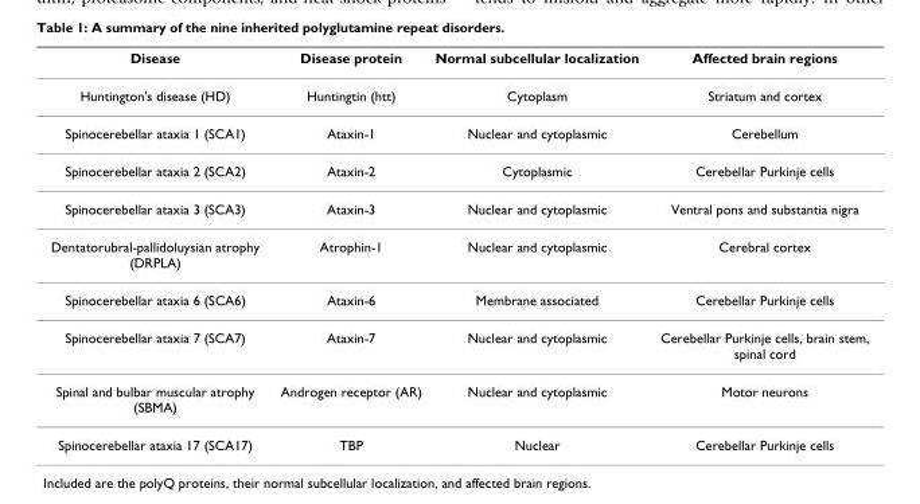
<table><thead><tr><td>Disease</td><td>Disease protein</td><td>Normal subcellular localization</td><td>Affected brain regions</td></tr></thead><tbody><tr><td>Huntington&#x27;s disease (HD)</td><td>Huntingtin (htt)</td><td>Cytoplasm</td><td>Striatum and cortex</td></tr><tr><td>Spinocerebellar ataxia 1 (SCA1)</td><td>Ataxin-1</td><td>Nuclear and cytoplasmic</td><td>Cerebellum</td></tr><tr><td>Spinocerebellar ataxia 2 (SCA2)</td><td>Ataxin-2</td><td>Cytoplasmic</td><td>Cerebellar Purkinje cells</td></tr><tr><td>Spinocerebellar ataxia 3 (SCA3)</td><td>Ataxin-3</td><td>Nuclear and cytoplasmic</td><td>Ventral pons and substantia nigra</td></tr><tr><td>Dentatorubral-pallidoluysian atrophy (DRPLA)</td><td>Atrophin-1</td><td>Nuclear and cytoplasmic</td><td>Cerebral cortex</td></tr><tr><td>Spinocerebellar ataxia 6 (SCA6)</td><td>Ataxin-6</td><td>Membrane associated</td><td>Cerebellar Purkinje cells</td></tr><tr><td>Spinocerebellar ataxia 7 (SCA7)</td><td>Ataxin-7</td><td>Nuclear and cytoplasmic</td><td>Cerebellar Purkinje cells, brain stem, spinal cord</td></tr><tr><td>Spinal and bulbar muscular atrophy (SBMA)</td><td>Androgen receptor (AR)</td><td>Nuclear and cytoplasmic</td><td>Motor neurons</td></tr><tr><td>Spinocerebellar ataxia 17 (SCA17)</td><td>TBP</td><td>Nuclear</td><td>Cerebellar Purkinje cells</td></tr></tbody></table>